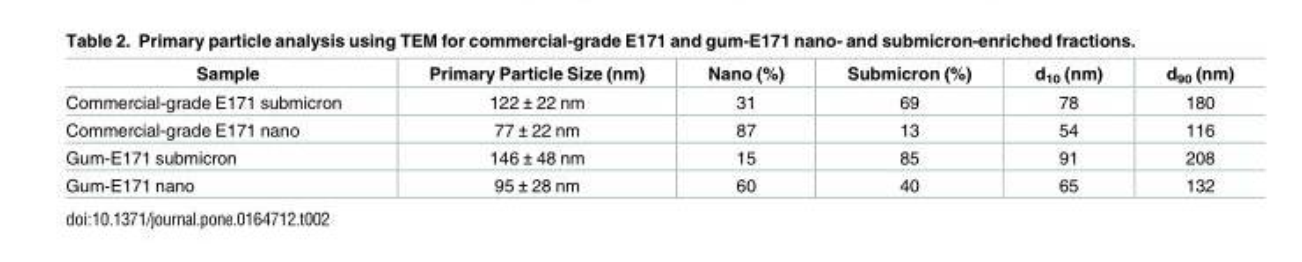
<table><thead><tr><td>Sample</td><td>Primary Particle Size (nm)</td><td>Nano (%)</td><td>Submicron (%)</td><td>d<sub>10</sub> (nm)</td><td>d<sub>90</sub> (nm)</td></tr></thead><tbody><tr><td>Commercial-grade E171 submicron</td><td>122 ± 22 nm</td><td>31</td><td>69</td><td>78</td><td>180</td></tr><tr><td>Commercial-grade E171 nano</td><td>77 ± 22 nm</td><td>87</td><td>13</td><td>54</td><td>116</td></tr><tr><td>Gum-E171 submicron</td><td>146 ± 48 nm</td><td>15</td><td>85</td><td>91</td><td>208</td></tr><tr><td>Gum-E171 nano</td><td>95 ± 28 nm</td><td>60</td><td>40</td><td>65</td><td>132</td></tr></tbody></table>